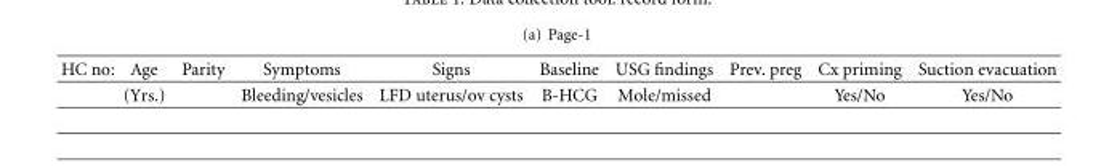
<table><thead><tr><td>HC no:</td><td>Age</td><td>Parity</td><td>Symptoms</td><td>Signs</td><td>Baseline</td><td>USG findings</td><td>Prev. preg</td><td>Cx priming</td><td>Suction evacuation</td></tr></thead><tbody><tr><td></td><td>(Yrs.)</td><td></td><td>Bleeding/vesicles</td><td>LFD uterus/ov cysts</td><td>B-HCG</td><td>Mole/missed</td><td></td><td>Yes/No</td><td>Yes/No</td></tr></tbody></table>